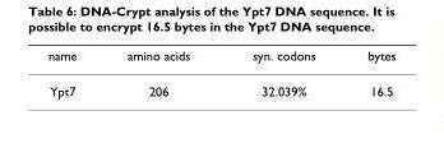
<table><thead><tr><td>name</td><td>amino acids</td><td>syn. codons</td><td>bytes</td></tr></thead><tbody><tr><td>Ypt7</td><td>206</td><td>32.039%</td><td>16.5</td></tr></tbody></table>